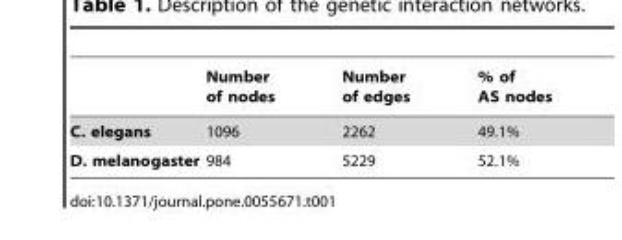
<table><thead><tr><td></td><td>Number of nodes</td><td>Number of edges</td><td>% of AS nodes</td></tr></thead><tbody><tr><td>C. elegans</td><td>1096</td><td>2262</td><td>49.1%</td></tr><tr><td>D. melanogaster</td><td>984</td><td>5229</td><td>52.1%</td></tr></tbody></table>